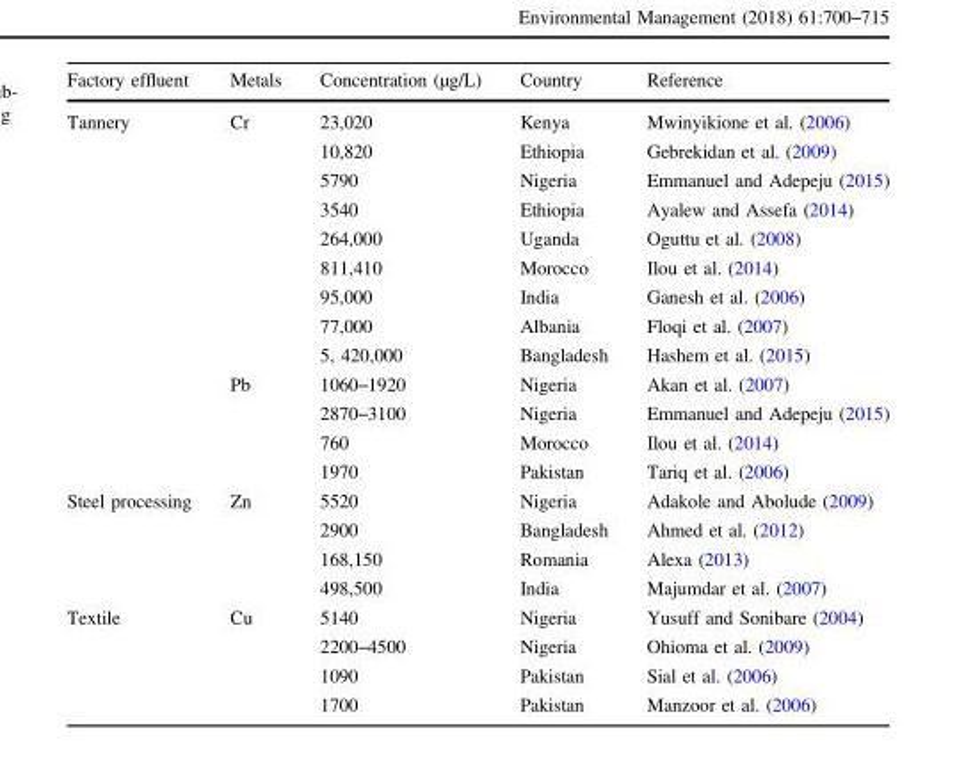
<table><thead><tr><td>Factory effluent</td><td>Metals</td><td>Concentration (µg/L)</td><td>Country</td><td>Reference</td></tr></thead><tbody><tr><td rowspan="13">Tannery</td><td>Cr</td><td>23,020</td><td>Kenya</td><td>Mwinyikione et al. (2006)</td></tr><tr><td></td><td>10,820</td><td>Ethiopia</td><td>Gebrekidan et al. (2009)</td></tr><tr><td></td><td>5790</td><td>Nigeria</td><td>Emmanuel and Adepeju (2015)</td></tr><tr><td></td><td>3540</td><td>Ethiopia</td><td>Ayalew and Assefa (2014)</td></tr><tr><td></td><td>264,000</td><td>Uganda</td><td>Oguttu et al. (2008)</td></tr><tr><td></td><td>811,410</td><td>Morocco</td><td>Ilou et al. (2014)</td></tr><tr><td></td><td>95,000</td><td>India</td><td>Ganesh et al. (2006)</td></tr><tr><td></td><td>77,000</td><td>Albania</td><td>Floqi et al. (2007)</td></tr><tr><td></td><td>5, 420,000</td><td>Bangladesh</td><td>Hashem et al. (2015)</td></tr><tr><td>Pb</td><td>1060–1920</td><td>Nigeria</td><td>Akan et al. (2007)</td></tr><tr><td></td><td>2870–3100</td><td>Nigeria</td><td>Emmanuel and Adepeju (2015)</td></tr><tr><td></td><td>760</td><td>Morocco</td><td>Ilou et al. (2014)</td></tr><tr><td></td><td>1970</td><td>Pakistan</td><td>Tariq et al. (2006)</td></tr><tr><td rowspan="4">Steel processing</td><td>Zn</td><td>5520</td><td>Nigeria</td><td>Adakole and Abolude (2009)</td></tr><tr><td></td><td>2900</td><td>Bangladesh</td><td>Ahmed et al. (2012)</td></tr><tr><td></td><td>168,150</td><td>Romania</td><td>Alexa (2013)</td></tr><tr><td></td><td>498,500</td><td>India</td><td>Majumdar et al. (2007)</td></tr><tr><td rowspan="4">Textile</td><td>Cu</td><td>5140</td><td>Nigeria</td><td>Yusuff and Sonibare (2004)</td></tr><tr><td></td><td>2200–4500</td><td>Nigeria</td><td>Ohioma et al. (2009)</td></tr><tr><td></td><td>1090</td><td>Pakistan</td><td>Sial et al. (2006)</td></tr><tr><td></td><td>1700</td><td>Pakistan</td><td>Manzoor et al. (2006)</td></tr></tbody></table>